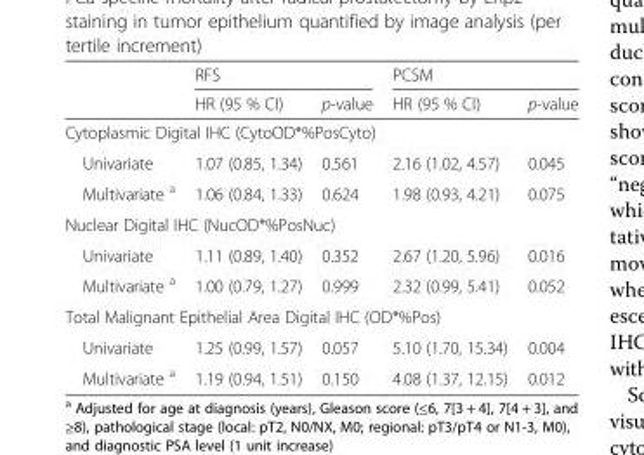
<table><thead><tr><td rowspan="2"></td><td colspan="2">RFS</td><td colspan="2">PCSM</td></tr><tr><td>HR (95 % CI)</td><td>p-value</td><td>HR (95 % CI)</td><td>p-value</td></tr></thead><tbody><tr><td colspan="5">Cytoplasmic Digital IHC (CytoOD*%PosCyto)</td></tr><tr><td>Univariate</td><td>1.07 (0.85, 1.34)</td><td>0.561</td><td>2.16 (1.02, 4.57)</td><td>0.045</td></tr><tr><td>Multivariate <sup>a</sup></td><td>1.06 (0.84, 1.33)</td><td>0.624</td><td>1.98 (0.93, 4.21)</td><td>0.075</td></tr><tr><td colspan="5">Nuclear Digital IHC (NucOD*%PosNuc)</td></tr><tr><td>Univariate</td><td>1.11 (0.89, 1.40)</td><td>0.352</td><td>2.67 (1.20, 5.96)</td><td>0.016</td></tr><tr><td>Multivariate <sup>a</sup></td><td>1.00 (0.79, 1.27)</td><td>0.999</td><td>2.32 (0.99, 5.41)</td><td>0.052</td></tr><tr><td colspan="5">Total Malignant Epithelial Area Digital IHC (OD*%Pos)</td></tr><tr><td>Univariate</td><td>1.25 (0.99, 1.57)</td><td>0.057</td><td>5.10 (1.70, 15.34)</td><td>0.004</td></tr><tr><td>Multivariate <sup>a</sup></td><td>1.19 (0.94, 1.51)</td><td>0.150</td><td>4.08 (1.37, 12.15)</td><td>0.012</td></tr></tbody></table>